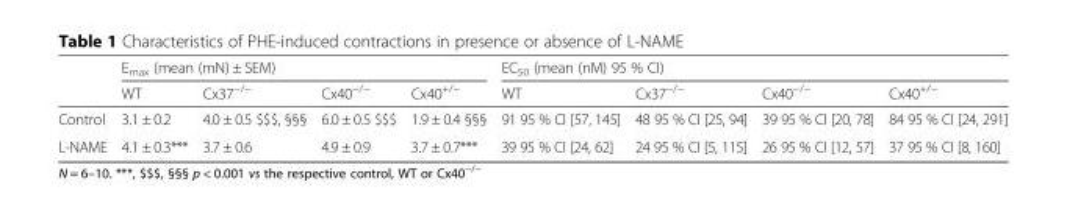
<table><thead><tr><td rowspan="2"></td><td colspan="4">E<sub>max</sub> (mean (mN) ± SEM)</td><td colspan="4">EC<sub>50</sub> (mean (nM) 95 % CI)</td></tr><tr><td>WT</td><td>Cx37<sup>−/−</sup></td><td>Cx40<sup>−/−</sup></td><td>Cx40<sup>+/−</sup></td><td>WT</td><td>Cx37<sup>−/−</sup></td><td>Cx40<sup>−/−</sup></td><td>Cx40<sup>+/−</sup></td></tr></thead><tbody><tr><td>Control</td><td>3.1 ± 0.2</td><td>4.0 ± 0.5 $$$, §§§</td><td>6.0 ± 0.5 $$$</td><td>1.9 ± 0.4 §§§</td><td>91 95 % CI [57, 145]</td><td>48 95 % CI [25, 94]</td><td>39 95 % CI [20, 78]</td><td>84 95 % CI [24, 291]</td></tr><tr><td>L-NAME</td><td>4.1 ± 0.3***</td><td>3.7 ± 0.6</td><td>4.9 ± 0.9</td><td>3.7 ± 0.7***</td><td>39 95 % CI [24, 62]</td><td>24 95 % CI [5, 115]</td><td>26 95 % CI [12, 57]</td><td>37 95 % CI [8, 160]</td></tr></tbody></table>